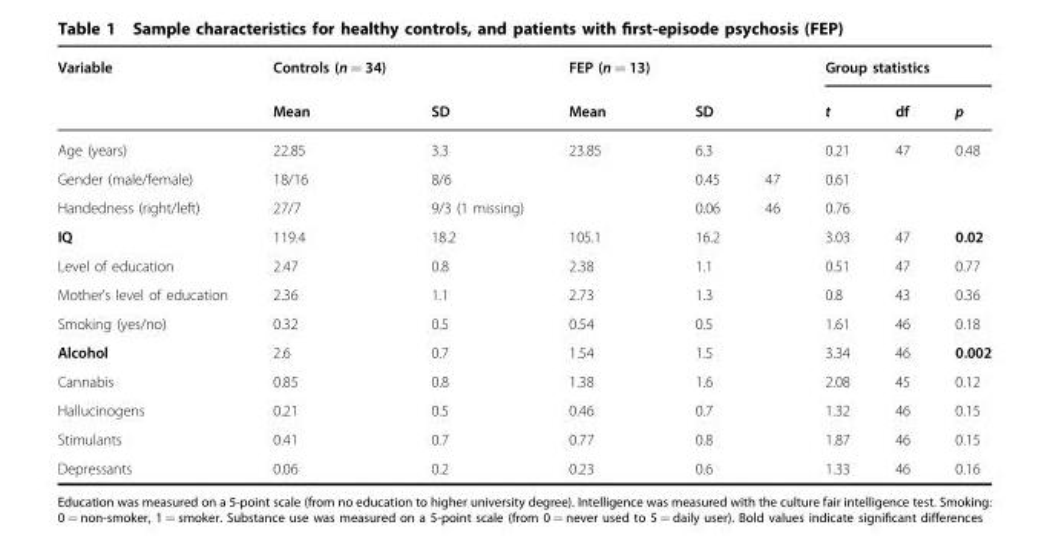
<table><thead><tr><td rowspan="2">Variable</td><td rowspan="2">Controls (n = 34) Mean</td><td rowspan="2">SD</td><td rowspan="2">FEP (n = 13) Mean</td><td rowspan="2">SD</td><td rowspan="2"></td><td colspan="3">Group statistics</td></tr><tr><td>t</td><td>df</td><td>p</td></tr></thead><tbody><tr><td>Age (years)</td><td>22.85</td><td>3.3</td><td>23.85</td><td>6.3</td><td></td><td>0.21</td><td>47</td><td>0.48</td></tr><tr><td>Gender (male/female)</td><td>18/16</td><td>8/6</td><td></td><td>0.45</td><td>47</td><td>0.61</td><td></td><td></td></tr><tr><td>Handedness (right/left)</td><td>27/7</td><td>9/3 (1 missing)</td><td></td><td>0.06</td><td>46</td><td>0.76</td><td></td><td></td></tr><tr><td>IQ</td><td>119.4</td><td>18.2</td><td>105.1</td><td>16.2</td><td></td><td>3.03</td><td>47</td><td>0.02</td></tr><tr><td>Level of education</td><td>2.47</td><td>0.8</td><td>2.38</td><td>1.1</td><td></td><td>0.51</td><td>47</td><td>0.77</td></tr><tr><td>Mother’s level of education</td><td>2.36</td><td>1.1</td><td>2.73</td><td>1.3</td><td></td><td>0.8</td><td>43</td><td>0.36</td></tr><tr><td>Smoking (yes/no)</td><td>0.32</td><td>0.5</td><td>0.54</td><td>0.5</td><td></td><td>1.61</td><td>46</td><td>0.18</td></tr><tr><td>Alcohol</td><td>2.6</td><td>0.7</td><td>1.54</td><td>1.5</td><td></td><td>3.34</td><td>46</td><td>0.002</td></tr><tr><td>Cannabis</td><td>0.85</td><td>0.8</td><td>1.38</td><td>1.6</td><td></td><td>2.08</td><td>45</td><td>0.12</td></tr><tr><td>Hallucinogens</td><td>0.21</td><td>0.5</td><td>0.46</td><td>0.7</td><td></td><td>1.32</td><td>46</td><td>0.15</td></tr><tr><td>Stimulants</td><td>0.41</td><td>0.7</td><td>0.77</td><td>0.8</td><td></td><td>1.87</td><td>46</td><td>0.15</td></tr><tr><td>Depressants</td><td>0.06</td><td>0.2</td><td>0.23</td><td>0.6</td><td></td><td>1.33</td><td>46</td><td>0.16</td></tr></tbody></table>